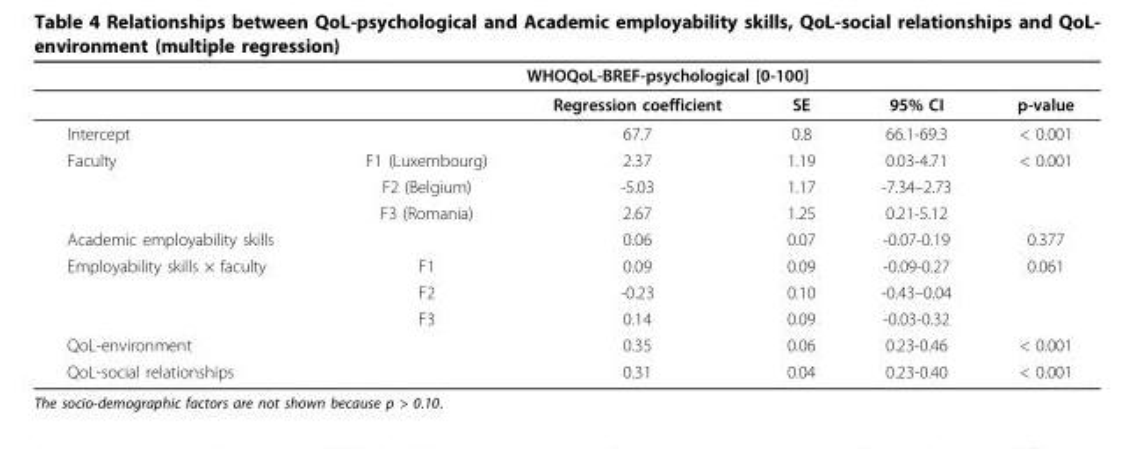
<table><thead><tr><td rowspan="2"></td><td rowspan="2"></td><td colspan="4">WHOQoL-BREF-psychological [0-100]</td></tr><tr><td>Regression coefficient</td><td>SE</td><td>95% CI</td><td>p-value</td></tr></thead><tbody><tr><td>Intercept</td><td></td><td>67.7</td><td>0.8</td><td>66.1-69.3</td><td>&lt; 0.001</td></tr><tr><td rowspan="3">Faculty</td><td>F1 (Luxembourg)</td><td>2.37</td><td>1.19</td><td>0.03-4.71</td><td>&lt; 0.001</td></tr><tr><td>F2 (Belgium)</td><td>-5.03</td><td>1.17</td><td>-7.34–2.73</td><td></td></tr><tr><td>F3 (Romania)</td><td>2.67</td><td>1.25</td><td>0.21-5.12</td><td></td></tr><tr><td>Academic employability skills</td><td></td><td>0.06</td><td>0.07</td><td>-0.07-0.19</td><td>0.377</td></tr><tr><td rowspan="3">Employability skills × faculty</td><td>F1</td><td>0.09</td><td>0.09</td><td>-0.09-0.27</td><td>0.061</td></tr><tr><td>F2</td><td>-0.23</td><td>0.10</td><td>-0.43–0.04</td><td></td></tr><tr><td>F3</td><td>0.14</td><td>0.09</td><td>-0.03-0.32</td><td></td></tr><tr><td>QoL-environment</td><td></td><td>0.35</td><td>0.06</td><td>0.23-0.46</td><td>&lt; 0.001</td></tr><tr><td>QoL-social relationships</td><td></td><td>0.31</td><td>0.04</td><td>0.23-0.40</td><td>&lt; 0.001</td></tr></tbody></table>